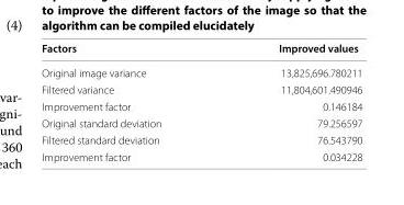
<table><thead><tr><td>Factors</td><td>Improved values</td></tr></thead><tbody><tr><td>Original image variance</td><td>13,825,696.780211</td></tr><tr><td>Filtered variance</td><td>11,804,601.490946</td></tr><tr><td>Improvement factor</td><td>0.146184</td></tr><tr><td>Original standard deviation</td><td>79.256597</td></tr><tr><td>Filtered standard deviation</td><td>76.543790</td></tr><tr><td>Improvement factor</td><td>0.034228</td></tr></tbody></table>